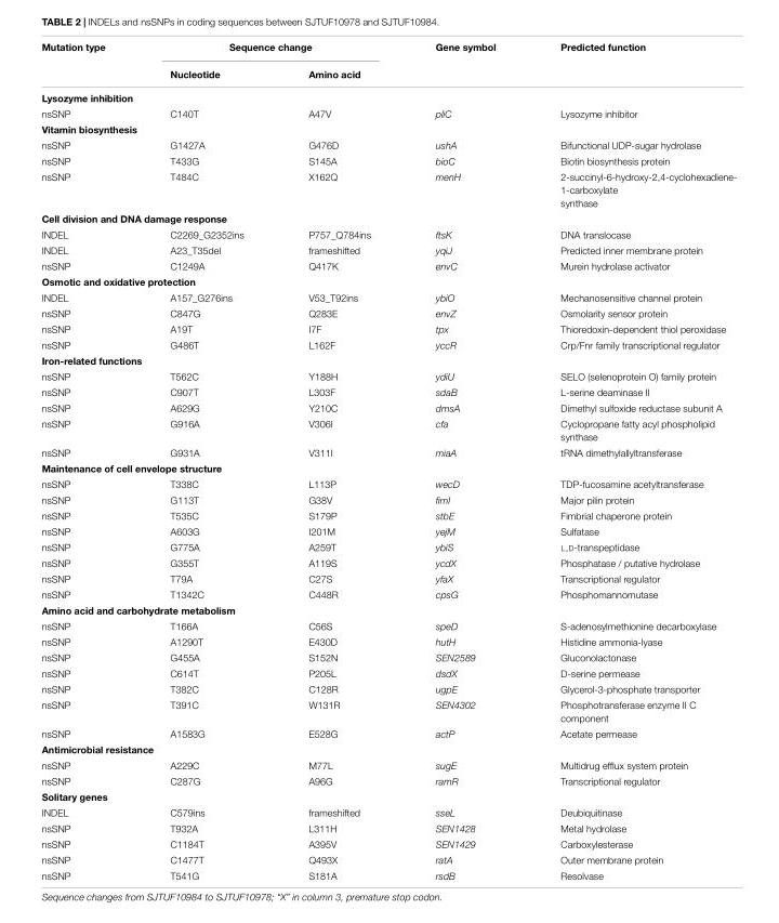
<table><thead><tr><td rowspan="2">Mutation type</td><td colspan="2">Sequence change</td><td rowspan="2">Gene symbol</td><td rowspan="2">Predicted function</td></tr><tr><td>Nucleotide</td><td>Amino acid</td></tr></thead><tbody><tr><td colspan="5">Lysozyme inhibition</td></tr><tr><td>nsSNP</td><td>C140T</td><td>A47V</td><td>pliC</td><td>Lysozyme inhibitor</td></tr><tr><td colspan="5">Vitamin biosynthesis</td></tr><tr><td>nsSNP</td><td>G1427A</td><td>G476D</td><td>ushA</td><td>Bifunctional UDP-sugar hydrolase</td></tr><tr><td>nsSNP</td><td>T433G</td><td>S145A</td><td>bioC</td><td>Biotin biosynthesis protein</td></tr><tr><td>nsSNP</td><td>T484C</td><td>X162Q</td><td>menH</td><td>2-succinyl-6-hydroxy-2,4-cyclohexadiene- 1-carboxylate synthase</td></tr><tr><td colspan="5">Cell division and DNA damage response</td></tr><tr><td>INDEL</td><td>C2269_G2352ins</td><td>P757_Q784ins</td><td>ftsK</td><td>DNA translocase</td></tr><tr><td>INDEL</td><td>A23_T35del</td><td>frameshifted</td><td>yqiJ</td><td>Predicted inner membrane protein</td></tr><tr><td>nsSNP</td><td>C1249A</td><td>Q417K</td><td>envC</td><td>Murein hydrolase activator</td></tr><tr><td colspan="5">Osmotic and oxidative protection</td></tr><tr><td>INDEL</td><td>A157_G276ins</td><td>V53_T92ins</td><td>ybiO</td><td>Mechanosensitive channel protein</td></tr><tr><td>nsSNP</td><td>C847G</td><td>Q283E</td><td>envZ</td><td>Osmolarity sensor protein</td></tr><tr><td>nsSNP</td><td>A19T</td><td>I7F</td><td>tpx</td><td>Thioredoxin-dependent thiol peroxidase</td></tr><tr><td>nsSNP</td><td>G486T</td><td>L162F</td><td>yccR</td><td>Crp/Fnr family transcriptional regulator</td></tr><tr><td colspan="5">Iron-related functions</td></tr><tr><td>nsSNP</td><td>T562C</td><td>Y188H</td><td>ydiU</td><td>SELO (selenoprotein O) family protein</td></tr><tr><td>nsSNP</td><td>C907T</td><td>L303F</td><td>sdaB</td><td>L-serine deaminase II</td></tr><tr><td>nsSNP</td><td>A629G</td><td>Y210C</td><td>dmsA</td><td>Dimethyl sulfoxide reductase subunit A</td></tr><tr><td>nsSNP</td><td>G916A</td><td>V306I</td><td>cfa</td><td>Cyclopropane fatty acyl phospholipid synthase</td></tr><tr><td>nsSNP</td><td>G931A</td><td>V311I</td><td>miaA</td><td>tRNA dimethylallyltransferase</td></tr><tr><td colspan="5">Maintenance of cell envelope structure</td></tr><tr><td>nsSNP</td><td>T338C</td><td>L113P</td><td>wecD</td><td>TDP-fucosamine acetyltransferase</td></tr><tr><td>nsSNP</td><td>G113T</td><td>G38V</td><td>fimI</td><td>Major pilin protein</td></tr><tr><td>nsSNP</td><td>T535C</td><td>S179P</td><td>stbE</td><td>Fimbrial chaperone protein</td></tr><tr><td>nsSNP</td><td>A603G</td><td>I201M</td><td>yejM</td><td>Sulfatase</td></tr><tr><td>nsSNP</td><td>G775A</td><td>A259T</td><td>ybiS</td><td>L,D-transpeptidase</td></tr><tr><td>nsSNP</td><td>G355T</td><td>A119S</td><td>ycdX</td><td>Phosphatase / putative hydrolase</td></tr><tr><td>nsSNP</td><td>T79A</td><td>C27S</td><td>yfaX</td><td>Transcriptional regulator</td></tr><tr><td>nsSNP</td><td>T1342C</td><td>C448R</td><td>cpsG</td><td>Phosphomannomutase</td></tr><tr><td colspan="5">Amino acid and carbohydrate metabolism</td></tr><tr><td>nsSNP</td><td>T166A</td><td>C56S</td><td>speD</td><td>S-adenosylmethionine decarboxylase</td></tr><tr><td>nsSNP</td><td>A1290T</td><td>E430D</td><td>hutH</td><td>Histidine ammonia-lyase</td></tr><tr><td>nsSNP</td><td>G455A</td><td>S152N</td><td>SEN2589</td><td>Gluconolactonase</td></tr><tr><td>nsSNP</td><td>C614T</td><td>P205L</td><td>dsdX</td><td>D-serine permease</td></tr><tr><td>nsSNP</td><td>T382C</td><td>C128R</td><td>ugpE</td><td>Glycerol-3-phosphate transporter</td></tr><tr><td>nsSNP</td><td>T391C</td><td>W131R</td><td>SEN4302</td><td>Phosphotransferase enzyme II C component</td></tr><tr><td>nsSNP</td><td>A1583G</td><td>E528G</td><td>actP</td><td>Acetate permease</td></tr><tr><td colspan="5">Antimicrobial resistance</td></tr><tr><td>nsSNP</td><td>A229C</td><td>M77L</td><td>sugE</td><td>Multidrug efflux system protein</td></tr><tr><td>nsSNP</td><td>C287G</td><td>A96G</td><td>ramR</td><td>Transcriptional regulator</td></tr><tr><td colspan="5">Solitary genes</td></tr><tr><td>INDEL</td><td>C579ins</td><td>frameshifted</td><td>sseL</td><td>Deubiquitinase</td></tr><tr><td>nsSNP</td><td>T932A</td><td>L311H</td><td>SEN1428</td><td>Metal hydrolase</td></tr><tr><td>nsSNP</td><td>C1184T</td><td>A395V</td><td>SEN1429</td><td>Carboxylesterase</td></tr><tr><td>nsSNP</td><td>C1477T</td><td>Q493X</td><td>ratA</td><td>Outer membrane protein</td></tr><tr><td>nsSNP</td><td>T541G</td><td>S181A</td><td>rsdB</td><td>Resolvase</td></tr></tbody></table>